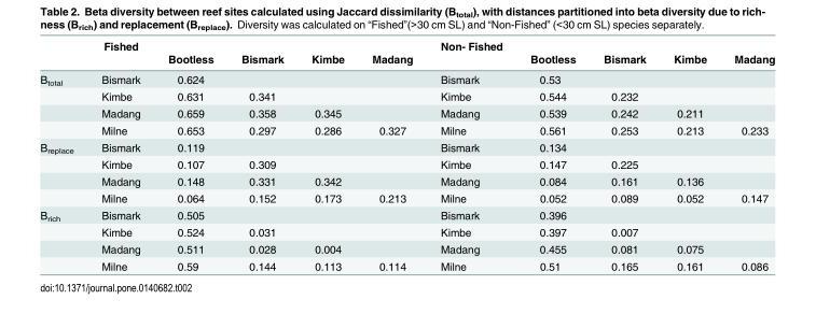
<table><thead><tr><td rowspan="2"></td><td rowspan="2">Fished</td><td rowspan="2">Bootless</td><td rowspan="2">Bismark</td><td rowspan="2">Kimbe</td><td rowspan="2">Madang</td><td rowspan="2">Non- Fished</td><td rowspan="2">Bootless</td><td rowspan="2">Bismark</td><td rowspan="2">Kimbe</td><td rowspan="2">Madang</td></tr><tr></tr></thead><tbody><tr><td rowspan="4">B<sub>total</sub></td><td>Bismark</td><td>0.624</td><td></td><td></td><td></td><td>Bismark</td><td>0.53</td><td></td><td></td><td></td></tr><tr><td>Kimbe</td><td>0.631</td><td>0.341</td><td></td><td></td><td>Kimbe</td><td>0.544</td><td>0.232</td><td></td><td></td></tr><tr><td>Madang</td><td>0.659</td><td>0.358</td><td>0.345</td><td></td><td>Madang</td><td>0.539</td><td>0.242</td><td>0.211</td><td></td></tr><tr><td>Milne</td><td>0.653</td><td>0.297</td><td>0.286</td><td>0.327</td><td>Milne</td><td>0.561</td><td>0.253</td><td>0.213</td><td>0.233</td></tr><tr><td rowspan="4">B<sub>replace</sub></td><td>Bismark</td><td>0.119</td><td></td><td></td><td></td><td>Bismark</td><td>0.134</td><td></td><td></td><td></td></tr><tr><td>Kimbe</td><td>0.107</td><td>0.309</td><td></td><td></td><td>Kimbe</td><td>0.147</td><td>0.225</td><td></td><td></td></tr><tr><td>Madang</td><td>0.148</td><td>0.331</td><td>0.342</td><td></td><td>Madang</td><td>0.084</td><td>0.161</td><td>0.136</td><td></td></tr><tr><td>Milne</td><td>0.064</td><td>0.152</td><td>0.173</td><td>0.213</td><td>Milne</td><td>0.052</td><td>0.089</td><td>0.052</td><td>0.147</td></tr><tr><td rowspan="4">B<sub>rich</sub></td><td>Bismark</td><td>0.505</td><td></td><td></td><td></td><td>Bismark</td><td>0.396</td><td></td><td></td><td></td></tr><tr><td>Kimbe</td><td>0.524</td><td>0.031</td><td></td><td></td><td>Kimbe</td><td>0.397</td><td>0.007</td><td></td><td></td></tr><tr><td>Madang</td><td>0.511</td><td>0.028</td><td>0.004</td><td></td><td>Madang</td><td>0.455</td><td>0.081</td><td>0.075</td><td></td></tr><tr><td>Milne</td><td>0.59</td><td>0.144</td><td>0.113</td><td>0.114</td><td>Milne</td><td>0.51</td><td>0.165</td><td>0.161</td><td>0.086</td></tr></tbody></table>